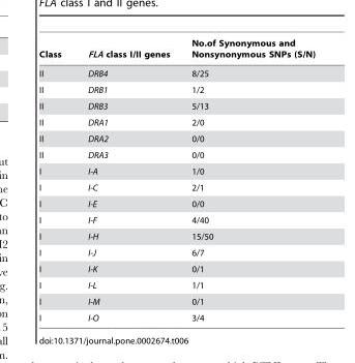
<table><thead><tr><td>Class</td><td>FLA class I/II genes</td><td>No.of Synonymous and Nonsynonymous SNPs (S/N)</td></tr></thead><tbody><tr><td>II</td><td>DRB4</td><td>8/25</td></tr><tr><td>II</td><td>DRB1</td><td>1/2</td></tr><tr><td>II</td><td>DRB3</td><td>5/13</td></tr><tr><td>II</td><td>DRA1</td><td>2/0</td></tr><tr><td>II</td><td>DRA2</td><td>0/0</td></tr><tr><td>II</td><td>DRA3</td><td>0/0</td></tr><tr><td>I</td><td>I-A</td><td>1/0</td></tr><tr><td>I</td><td>I-C</td><td>2/1</td></tr><tr><td>I</td><td>I-E</td><td>0/0</td></tr><tr><td>I</td><td>I-F</td><td>4/40</td></tr><tr><td>I</td><td>I-H</td><td>15/50</td></tr><tr><td>I</td><td>I-J</td><td>6/7</td></tr><tr><td>I</td><td>I-K</td><td>0/1</td></tr><tr><td>I</td><td>I-L</td><td>1/1</td></tr><tr><td>I</td><td>I-M</td><td>0/1</td></tr><tr><td>I</td><td>I-O</td><td>3/4</td></tr></tbody></table>